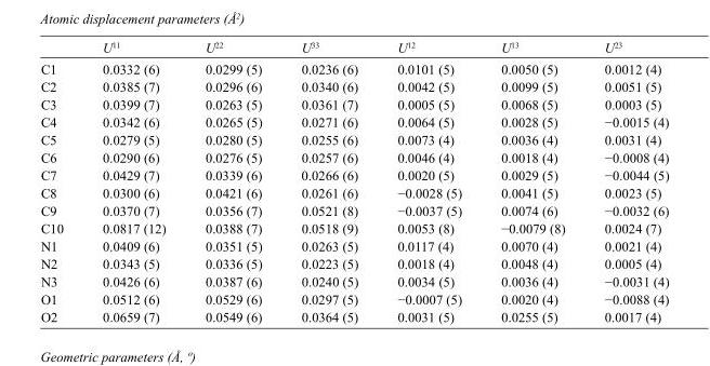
<table><thead><tr><td></td><td>U<sup>11</sup></td><td>U<sup>22</sup></td><td>U<sup>33</sup></td><td>U<sup>12</sup></td><td>U<sup>13</sup></td><td>U<sup>23</sup></td></tr></thead><tbody><tr><td>C1</td><td>0.0332 (6)</td><td>0.0299 (5)</td><td>0.0236 (6)</td><td>0.0101 (5)</td><td>0.0050 (5)</td><td>0.0012 (4)</td></tr><tr><td>C2</td><td>0.0385 (7)</td><td>0.0296 (6)</td><td>0.0340 (6)</td><td>0.0042 (5)</td><td>0.0099 (5)</td><td>0.0051 (5)</td></tr><tr><td>C3</td><td>0.0399 (7)</td><td>0.0263 (5)</td><td>0.0361 (7)</td><td>0.0005 (5)</td><td>0.0068 (5)</td><td>0.0003 (5)</td></tr><tr><td>C4</td><td>0.0342 (6)</td><td>0.0265 (5)</td><td>0.0271 (6)</td><td>0.0064 (5)</td><td>0.0028 (5)</td><td>−0.0015 (4)</td></tr><tr><td>C5</td><td>0.0279 (5)</td><td>0.0280 (5)</td><td>0.0255 (6)</td><td>0.0073 (4)</td><td>0.0036 (4)</td><td>0.0031 (4)</td></tr><tr><td>C6</td><td>0.0290 (6)</td><td>0.0276 (5)</td><td>0.0257 (6)</td><td>0.0046 (4)</td><td>0.0018 (4)</td><td>−0.0008 (4)</td></tr><tr><td>C7</td><td>0.0429 (7)</td><td>0.0339 (6)</td><td>0.0266 (6)</td><td>0.0020 (5)</td><td>0.0029 (5)</td><td>−0.0044 (5)</td></tr><tr><td>C8</td><td>0.0300 (6)</td><td>0.0421 (6)</td><td>0.0261 (6)</td><td>−0.0028 (5)</td><td>0.0041 (5)</td><td>0.0023 (5)</td></tr><tr><td>C9</td><td>0.0370 (7)</td><td>0.0356 (7)</td><td>0.0521 (8)</td><td>−0.0037 (5)</td><td>0.0074 (6)</td><td>−0.0032 (6)</td></tr><tr><td>C10</td><td>0.0817 (12)</td><td>0.0388 (7)</td><td>0.0518 (9)</td><td>0.0053 (8)</td><td>−0.0079 (8)</td><td>0.0024 (7)</td></tr><tr><td>N1</td><td>0.0409 (6)</td><td>0.0351 (5)</td><td>0.0263 (5)</td><td>0.0117 (4)</td><td>0.0070 (4)</td><td>0.0021 (4)</td></tr><tr><td>N2</td><td>0.0343 (5)</td><td>0.0336 (5)</td><td>0.0223 (5)</td><td>0.0018 (4)</td><td>0.0048 (4)</td><td>0.0005 (4)</td></tr><tr><td>N3</td><td>0.0426 (6)</td><td>0.0387 (6)</td><td>0.0240 (5)</td><td>0.0034 (5)</td><td>0.0036 (4)</td><td>−0.0031 (4)</td></tr><tr><td>O1</td><td>0.0512 (6)</td><td>0.0529 (6)</td><td>0.0297 (5)</td><td>−0.0007 (5)</td><td>0.0020 (4)</td><td>−0.0088 (4)</td></tr><tr><td>O2</td><td>0.0659 (7)</td><td>0.0549 (6)</td><td>0.0364 (5)</td><td>0.0031 (5)</td><td>0.0255 (5)</td><td>0.0017 (4)</td></tr></tbody></table>